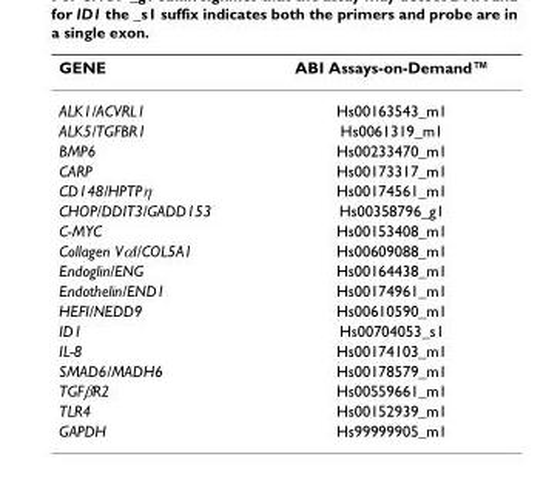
<table><thead><tr><td>GENE</td><td>ABI Assays-on-Demand™</td></tr></thead><tbody><tr><td>ALK1/ACVRL1</td><td>Hs00163543_m1</td></tr><tr><td>ALK5/TGFBR1</td><td>Hs0061319_m1</td></tr><tr><td>BMP6</td><td>Hs00233470_m1</td></tr><tr><td>CARP</td><td>Hs00173317_m1</td></tr><tr><td>CD148/HPTPη</td><td>Hs00174561_m1</td></tr><tr><td>CHOP/DDIT3/GADD153</td><td>Hs00358796_g1</td></tr><tr><td>C-MYC</td><td>Hs00153408_m1</td></tr><tr><td>Collagen VαI/COL5A1</td><td>Hs00609088_m1</td></tr><tr><td>Endoglin/ENG</td><td>Hs00164438_m1</td></tr><tr><td>Endothelin/END1</td><td>Hs00174961_m1</td></tr><tr><td>HEFI/NEDD9</td><td>Hs00610590_m1</td></tr><tr><td>ID1</td><td>Hs00704053_s1</td></tr><tr><td>IL-8</td><td>Hs00174103_m1</td></tr><tr><td>SMAD6/MADH6</td><td>Hs00178579_m1</td></tr><tr><td>TGFβR2</td><td>Hs00559661_m1</td></tr><tr><td>TLR4</td><td>Hs00152939_m1</td></tr><tr><td>GAPDH</td><td>Hs99999905_m1</td></tr></tbody></table>